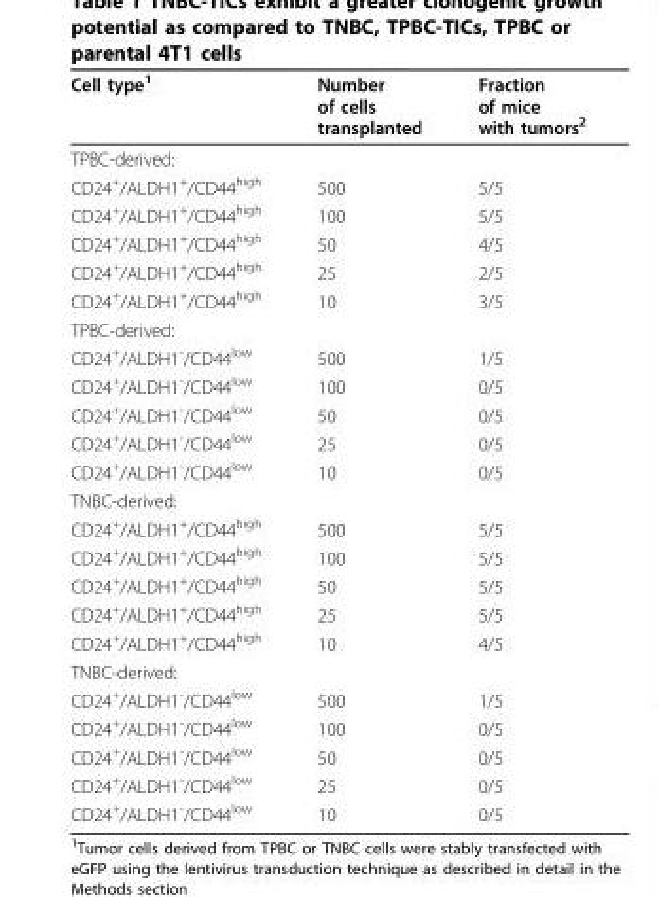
<table><thead><tr><td>Cell type<sup>1</sup></td><td>Number of cells transplanted</td><td>Fraction of mice with tumors<sup>2</sup></td></tr></thead><tbody><tr><td colspan="3">TPBC-derived:</td></tr><tr><td>CD24<sup>+</sup>/ALDH1<sup>+</sup>/CD44<sup>high</sup></td><td>500</td><td>5/5</td></tr><tr><td>CD24<sup>+</sup>/ALDH1<sup>+</sup>/CD44<sup>high</sup></td><td>100</td><td>5/5</td></tr><tr><td>CD24<sup>+</sup>/ALDH1<sup>+</sup>/CD44<sup>high</sup></td><td>50</td><td>4/5</td></tr><tr><td>CD24<sup>+</sup>/ALDH1<sup>+</sup>/CD44<sup>high</sup></td><td>25</td><td>2/5</td></tr><tr><td>CD24<sup>+</sup>/ALDH1<sup>+</sup>/CD44<sup>high</sup></td><td>10</td><td>3/5</td></tr><tr><td colspan="3">TPBC-derived:</td></tr><tr><td>CD24<sup>+</sup>/ALDH1<sup>-</sup>/CD44<sup>low</sup></td><td>500</td><td>1/5</td></tr><tr><td>CD24<sup>+</sup>/ALDH1<sup>-</sup>/CD44<sup>low</sup></td><td>100</td><td>0/5</td></tr><tr><td>CD24<sup>+</sup>/ALDH1<sup>-</sup>/CD44<sup>low</sup></td><td>50</td><td>0/5</td></tr><tr><td>CD24<sup>+</sup>/ALDH1<sup>-</sup>/CD44<sup>low</sup></td><td>25</td><td>0/5</td></tr><tr><td>CD24<sup>+</sup>/ALDH1<sup>-</sup>/CD44<sup>low</sup></td><td>10</td><td>0/5</td></tr><tr><td colspan="3">TNBC-derived:</td></tr><tr><td>CD24<sup>+</sup>/ALDH1<sup>+</sup>/CD44<sup>high</sup></td><td>500</td><td>5/5</td></tr><tr><td>CD24<sup>+</sup>/ALDH1<sup>+</sup>/CD44<sup>high</sup></td><td>100</td><td>5/5</td></tr><tr><td>CD24<sup>+</sup>/ALDH1<sup>+</sup>/CD44<sup>high</sup></td><td>50</td><td>5/5</td></tr><tr><td>CD24<sup>+</sup>/ALDH1<sup>+</sup>/CD44<sup>high</sup></td><td>25</td><td>5/5</td></tr><tr><td>CD24<sup>+</sup>/ALDH1<sup>+</sup>/CD44<sup>high</sup></td><td>10</td><td>4/5</td></tr><tr><td colspan="3">TNBC-derived:</td></tr><tr><td>CD24<sup>+</sup>/ALDH1<sup>-</sup>/CD44<sup>low</sup></td><td>500</td><td>1/5</td></tr><tr><td>CD24<sup>+</sup>/ALDH1<sup>-</sup>/CD44<sup>low</sup></td><td>100</td><td>0/5</td></tr><tr><td>CD24<sup>+</sup>/ALDH1<sup>-</sup>/CD44<sup>low</sup></td><td>50</td><td>0/5</td></tr><tr><td>CD24<sup>+</sup>/ALDH1<sup>-</sup>/CD44<sup>low</sup></td><td>25</td><td>0/5</td></tr><tr><td>CD24<sup>+</sup>/ALDH1<sup>-</sup>/CD44<sup>low</sup></td><td>10</td><td>0/5</td></tr></tbody></table>